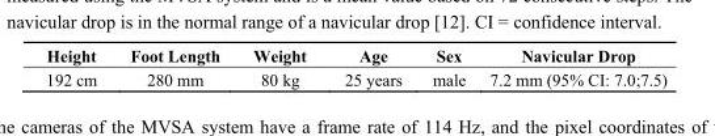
<table><thead><tr><td>Height</td><td>Foot Length</td><td>Weight</td><td>Age</td><td>Sex</td><td>Navicular Drop</td></tr></thead><tbody><tr><td>192 cm</td><td>280 mm</td><td>80 kg</td><td>25 years</td><td>male</td><td>7.2 mm (95% CI: 7.0;7.5)</td></tr></tbody></table>